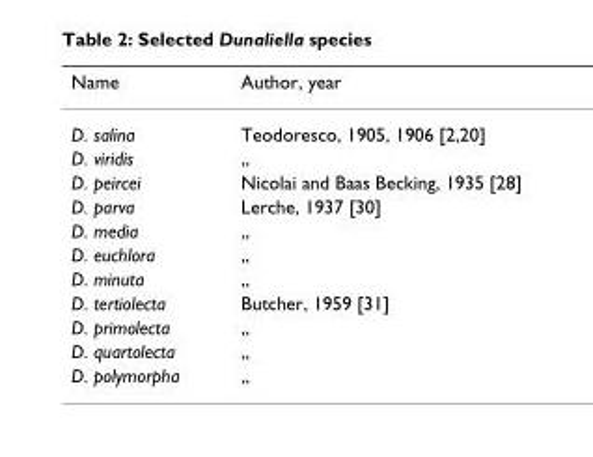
<table><thead><tr><td>Name</td><td>Author, year</td></tr></thead><tbody><tr><td>D. salina</td><td>Teodoresco, 1905, 1906 [2,20]</td></tr><tr><td>D. viridis</td><td>„</td></tr><tr><td>D. peircei</td><td>Nicolai and Baas Becking, 1935 [28]</td></tr><tr><td>D. parva</td><td>Lerche, 1937 [30]</td></tr><tr><td>D. media</td><td>„</td></tr><tr><td>D. euchlora</td><td>„</td></tr><tr><td>D. minuta</td><td>„</td></tr><tr><td>D. tertiolecta</td><td>Butcher, 1959 [31]</td></tr><tr><td>D. primolecta</td><td>„</td></tr><tr><td>D. quartolecta</td><td>„</td></tr><tr><td>D. polymorpha</td><td>„</td></tr></tbody></table>